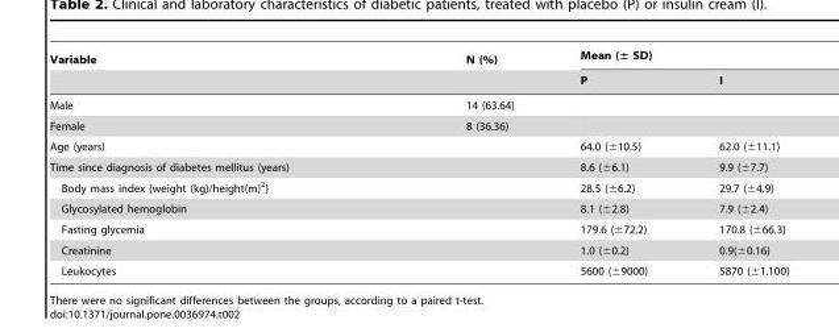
<table><thead><tr><td rowspan="2">Variable</td><td rowspan="2">N (%)</td><td colspan="2">Mean (± SD)</td></tr><tr><td>P</td><td>I</td></tr></thead><tbody><tr><td>Male</td><td>14 (63.64)</td><td></td><td></td></tr><tr><td>Female</td><td>8 (36.36)</td><td></td><td></td></tr><tr><td>Age (years)</td><td></td><td>64.0 (±10.5)</td><td>62.0 (±11.1)</td></tr><tr><td>Time since diagnosis of diabetes mellitus (years)</td><td></td><td>8.6 (±6.1)</td><td>9.9 (±7.7)</td></tr><tr><td>Body mass index {weight (kg)/height(m)<sup>2</sup>}</td><td></td><td>28.5 (±6.2)</td><td>29.7 (±4.9)</td></tr><tr><td>Glycosylated hemoglobin</td><td></td><td>8.1 (±2.8)</td><td>7.9 (±2.4)</td></tr><tr><td>Fasting glycemia</td><td></td><td>179.6 (±72.2)</td><td>170.8 (±66.3)</td></tr><tr><td>Creatinine</td><td></td><td>1.0 (±0.2)</td><td>0.9(±0.16)</td></tr><tr><td>Leukocytes</td><td></td><td>5600 (±9000)</td><td>5870 (±1.100)</td></tr></tbody></table>